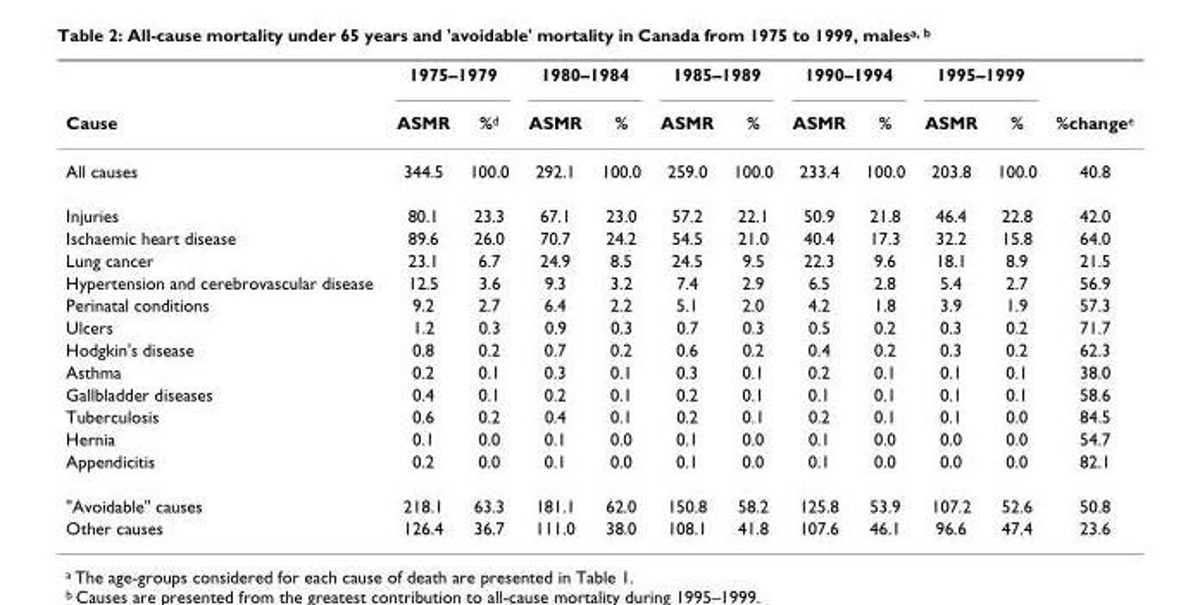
<table><thead><tr><td rowspan="2">Cause</td><td colspan="2">1975–1979</td><td colspan="2">1980–1984</td><td colspan="2">1985–1989</td><td colspan="2">1990–1994</td><td colspan="2">1995–1999</td><td rowspan="2">%changee</td></tr><tr><td>ASMR</td><td>%d</td><td>ASMR</td><td>%</td><td>ASMR</td><td>%</td><td>ASMR</td><td>%</td><td>ASMR</td><td>%</td></tr></thead><tbody><tr><td>All causes</td><td>344.5</td><td>100.0</td><td>292.1</td><td>100.0</td><td>259.0</td><td>100.0</td><td>233.4</td><td>100.0</td><td>203.8</td><td>100.0</td><td>40.8</td></tr><tr><td>Injuries</td><td>80.1</td><td>23.3</td><td>67.1</td><td>23.0</td><td>57.2</td><td>22.1</td><td>50.9</td><td>21.8</td><td>46.4</td><td>22.8</td><td>42.0</td></tr><tr><td>Ischaemic heart disease</td><td>89.6</td><td>26.0</td><td>70.7</td><td>24.2</td><td>54.5</td><td>21.0</td><td>40.4</td><td>17.3</td><td>32.2</td><td>15.8</td><td>64.0</td></tr><tr><td>Lung cancer</td><td>23.1</td><td>6.7</td><td>24.9</td><td>8.5</td><td>24.5</td><td>9.5</td><td>22.3</td><td>9.6</td><td>18.1</td><td>8.9</td><td>21.5</td></tr><tr><td>Hypertension and cerebrovascular disease</td><td>12.5</td><td>3.6</td><td>9.3</td><td>3.2</td><td>7.4</td><td>2.9</td><td>6.5</td><td>2.8</td><td>5.4</td><td>2.7</td><td>56.9</td></tr><tr><td>Perinatal conditions</td><td>9.2</td><td>2.7</td><td>6.4</td><td>2.2</td><td>5.1</td><td>2.0</td><td>4.2</td><td>1.8</td><td>3.9</td><td>1.9</td><td>57.3</td></tr><tr><td>Ulcers</td><td>1.2</td><td>0.3</td><td>0.9</td><td>0.3</td><td>0.7</td><td>0.3</td><td>0.5</td><td>0.2</td><td>0.3</td><td>0.2</td><td>71.7</td></tr><tr><td>Hodgkin&#x27;s disease</td><td>0.8</td><td>0.2</td><td>0.7</td><td>0.2</td><td>0.6</td><td>0.2</td><td>0.4</td><td>0.2</td><td>0.3</td><td>0.2</td><td>62.3</td></tr><tr><td>Asthma</td><td>0.2</td><td>0.1</td><td>0.3</td><td>0.1</td><td>0.3</td><td>0.1</td><td>0.2</td><td>0.1</td><td>0.1</td><td>0.1</td><td>38.0</td></tr><tr><td>Gallbladder diseases</td><td>0.4</td><td>0.1</td><td>0.2</td><td>0.1</td><td>0.2</td><td>0.1</td><td>0.1</td><td>0.1</td><td>0.1</td><td>0.1</td><td>58.6</td></tr><tr><td>Tuberculosis</td><td>0.6</td><td>0.2</td><td>0.4</td><td>0.1</td><td>0.2</td><td>0.1</td><td>0.2</td><td>0.1</td><td>0.1</td><td>0.0</td><td>84.5</td></tr><tr><td>Hernia</td><td>0.1</td><td>0.0</td><td>0.1</td><td>0.0</td><td>0.1</td><td>0.0</td><td>0.1</td><td>0.0</td><td>0.0</td><td>0.0</td><td>54.7</td></tr><tr><td>Appendicitis</td><td>0.2</td><td>0.0</td><td>0.1</td><td>0.0</td><td>0.1</td><td>0.0</td><td>0.1</td><td>0.0</td><td>0.0</td><td>0.0</td><td>82.1</td></tr><tr><td>&quot;Avoidable&quot; causes</td><td>218.1</td><td>63.3</td><td>181.1</td><td>62.0</td><td>150.8</td><td>58.2</td><td>125.8</td><td>53.9</td><td>107.2</td><td>52.6</td><td>50.8</td></tr><tr><td>Other causes</td><td>126.4</td><td>36.7</td><td>111.0</td><td>38.0</td><td>108.1</td><td>41.8</td><td>107.6</td><td>46.1</td><td>96.6</td><td>47.4</td><td>23.6</td></tr></tbody></table>